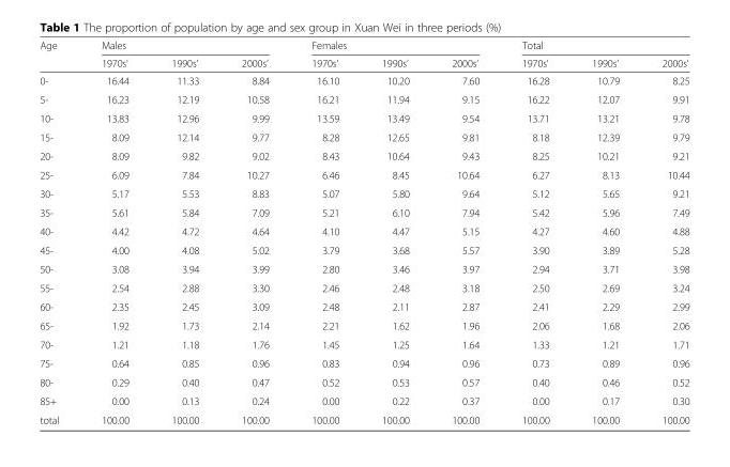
<table><thead><tr><td rowspan="2">Age</td><td colspan="3">Males</td><td colspan="3">Females</td><td colspan="3">Total</td></tr><tr><td>1970s’</td><td>1990s’</td><td>2000s’</td><td>1970s’</td><td>1990s’</td><td>2000s’</td><td>1970s’</td><td>1990s’</td><td>2000s’</td></tr></thead><tbody><tr><td>0-</td><td>16.44</td><td>11.33</td><td>8.84</td><td>16.10</td><td>10.20</td><td>7.60</td><td>16.28</td><td>10.79</td><td>8.25</td></tr><tr><td>5-</td><td>16.23</td><td>12.19</td><td>10.58</td><td>16.21</td><td>11.94</td><td>9.15</td><td>16.22</td><td>12.07</td><td>9.91</td></tr><tr><td>10-</td><td>13.83</td><td>12.96</td><td>9.99</td><td>13.59</td><td>13.49</td><td>9.54</td><td>13.71</td><td>13.21</td><td>9.78</td></tr><tr><td>15-</td><td>8.09</td><td>12.14</td><td>9.77</td><td>8.28</td><td>12.65</td><td>9.81</td><td>8.18</td><td>12.39</td><td>9.79</td></tr><tr><td>20-</td><td>8.09</td><td>9.82</td><td>9.02</td><td>8.43</td><td>10.64</td><td>9.43</td><td>8.25</td><td>10.21</td><td>9.21</td></tr><tr><td>25-</td><td>6.09</td><td>7.84</td><td>10.27</td><td>6.46</td><td>8.45</td><td>10.64</td><td>6.27</td><td>8.13</td><td>10.44</td></tr><tr><td>30-</td><td>5.17</td><td>5.53</td><td>8.83</td><td>5.07</td><td>5.80</td><td>9.64</td><td>5.12</td><td>5.65</td><td>9.21</td></tr><tr><td>35-</td><td>5.61</td><td>5.84</td><td>7.09</td><td>5.21</td><td>6.10</td><td>7.94</td><td>5.42</td><td>5.96</td><td>7.49</td></tr><tr><td>40-</td><td>4.42</td><td>4.72</td><td>4.64</td><td>4.10</td><td>4.47</td><td>5.15</td><td>4.27</td><td>4.60</td><td>4.88</td></tr><tr><td>45-</td><td>4.00</td><td>4.08</td><td>5.02</td><td>3.79</td><td>3.68</td><td>5.57</td><td>3.90</td><td>3.89</td><td>5.28</td></tr><tr><td>50-</td><td>3.08</td><td>3.94</td><td>3.99</td><td>2.80</td><td>3.46</td><td>3.97</td><td>2.94</td><td>3.71</td><td>3.98</td></tr><tr><td>55-</td><td>2.54</td><td>2.88</td><td>3.30</td><td>2.46</td><td>2.48</td><td>3.18</td><td>2.50</td><td>2.69</td><td>3.24</td></tr><tr><td>60-</td><td>2.35</td><td>2.45</td><td>3.09</td><td>2.48</td><td>2.11</td><td>2.87</td><td>2.41</td><td>2.29</td><td>2.99</td></tr><tr><td>65-</td><td>1.92</td><td>1.73</td><td>2.14</td><td>2.21</td><td>1.62</td><td>1.96</td><td>2.06</td><td>1.68</td><td>2.06</td></tr><tr><td>70-</td><td>1.21</td><td>1.18</td><td>1.76</td><td>1.45</td><td>1.25</td><td>1.64</td><td>1.33</td><td>1.21</td><td>1.71</td></tr><tr><td>75-</td><td>0.64</td><td>0.85</td><td>0.96</td><td>0.83</td><td>0.94</td><td>0.96</td><td>0.73</td><td>0.89</td><td>0.96</td></tr><tr><td>80-</td><td>0.29</td><td>0.40</td><td>0.47</td><td>0.52</td><td>0.53</td><td>0.57</td><td>0.40</td><td>0.46</td><td>0.52</td></tr><tr><td>85+</td><td>0.00</td><td>0.13</td><td>0.24</td><td>0.00</td><td>0.22</td><td>0.37</td><td>0.00</td><td>0.17</td><td>0.30</td></tr><tr><td>total</td><td>100.00</td><td>100.00</td><td>100.00</td><td>100.00</td><td>100.00</td><td>100.00</td><td>100.00</td><td>100.00</td><td>100.00</td></tr></tbody></table>